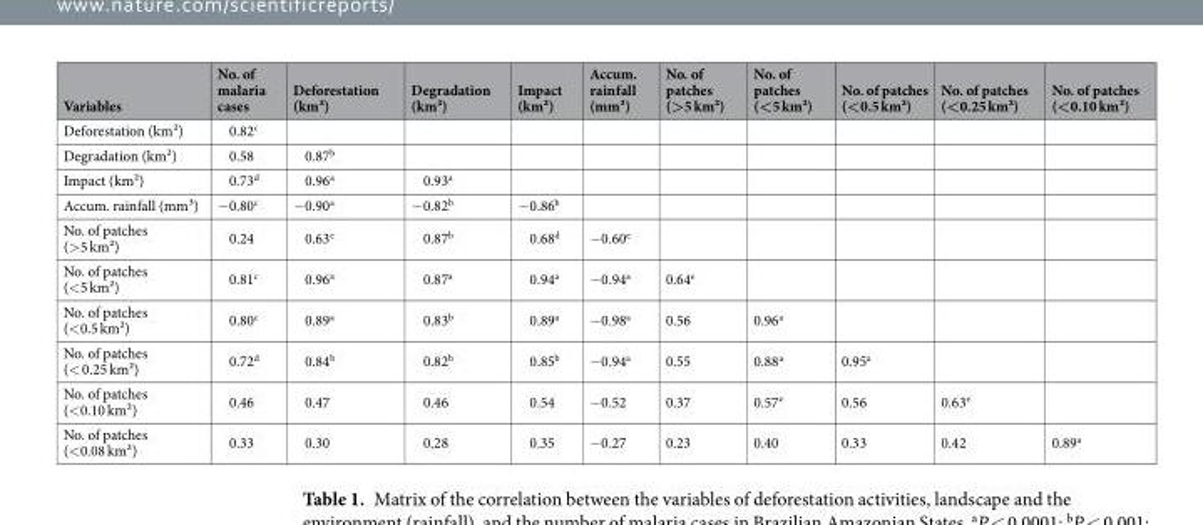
<table><thead><tr><td>Variables</td><td>No. of malaria cases</td><td>Deforestation (km²)</td><td>Degradation (km²)</td><td>Impact (km²)</td><td>Accum. rainfall (mm³)</td><td>No. of patches (&gt;5 km²)</td><td>No. of patches (&lt;5 km²)</td><td>No. of patches (&lt;0.5 km²)</td><td>No. of patches (&lt;0.25 km²)</td><td>No. of patches (&lt;0.10 km²)</td></tr></thead><tbody><tr><td>Deforestation (km²)</td><td>0.82<sup>c</sup></td><td></td><td></td><td></td><td></td><td></td><td></td><td></td><td></td><td></td></tr><tr><td>Degradation (km²)</td><td>0.58</td><td>0.87<sup>b</sup></td><td></td><td></td><td></td><td></td><td></td><td></td><td></td><td></td></tr><tr><td>Impact (km²)</td><td>0.73<sup>d</sup></td><td>0.96<sup>a</sup></td><td>0.93<sup>a</sup></td><td></td><td></td><td></td><td></td><td></td><td></td><td></td></tr><tr><td>Accum. rainfall (mm³)</td><td>−0.80<sup>c</sup></td><td>−0.90<sup>a</sup></td><td>−0.82<sup>b</sup></td><td>−0.86<sup>b</sup></td><td></td><td></td><td></td><td></td><td></td><td></td></tr><tr><td>No. of patches (&gt;5 km²)</td><td>0.24</td><td>0.63<sup>e</sup></td><td>0.87<sup>b</sup></td><td>0.68<sup>d</sup></td><td>−0.60<sup>e</sup></td><td></td><td></td><td></td><td></td><td></td></tr><tr><td>No. of patches (&lt;5 km²)</td><td>0.81<sup>c</sup></td><td>0.96<sup>a</sup></td><td>0.87<sup>a</sup></td><td>0.94<sup>a</sup></td><td>−0.94<sup>a</sup></td><td>0.64<sup>e</sup></td><td></td><td></td><td></td><td></td></tr><tr><td>No. of patches (&lt;0.5 km²)</td><td>0.80<sup>c</sup></td><td>0.89<sup>a</sup></td><td>0.83<sup>b</sup></td><td>0.89<sup>a</sup></td><td>−0.98<sup>a</sup></td><td>0.56</td><td>0.96<sup>a</sup></td><td></td><td></td><td></td></tr><tr><td>No. of patches (&lt; 0.25 km²)</td><td>0.72<sup>d</sup></td><td>0.84<sup>b</sup></td><td>0.82<sup>b</sup></td><td>0.85<sup>b</sup></td><td>−0.94<sup>a</sup></td><td>0.55</td><td>0.88<sup>a</sup></td><td>0.95<sup>a</sup></td><td></td><td></td></tr><tr><td>No. of patches (&lt;0.10 km²)</td><td>0.46</td><td>0.47</td><td>0.46</td><td>0.54</td><td>−0.52</td><td>0.37</td><td>0.57<sup>e</sup></td><td>0.56</td><td>0.63<sup>e</sup></td><td></td></tr><tr><td>No. of patches (&lt;0.08 km²)</td><td>0.33</td><td>0.30</td><td>0.28</td><td>0.35</td><td>−0.27</td><td>0.23</td><td>0.40</td><td>0.33</td><td>0.42</td><td>0.89<sup>a</sup></td></tr></tbody></table>